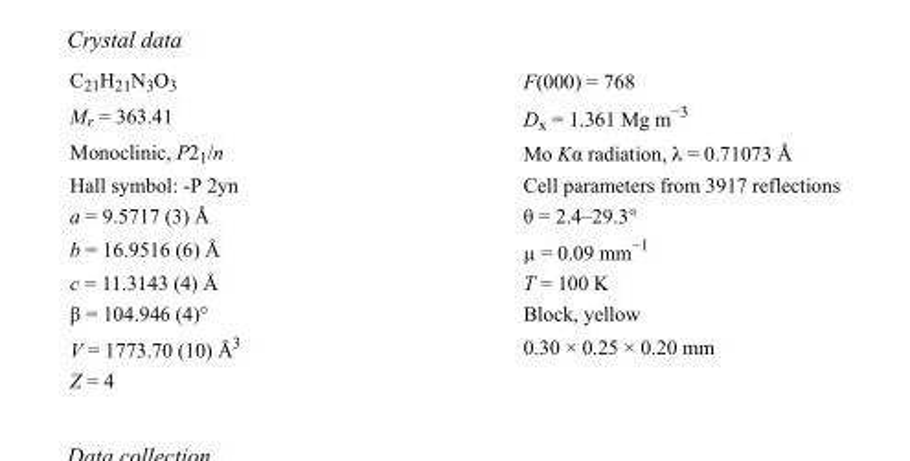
<table><tbody><tr><td>C<sub>21</sub>H<sub>21</sub>N<sub>3</sub>O<sub>3</sub></td><td>F(000) = 768</td></tr><tr><td>M<sub>r</sub> = 363.41</td><td>D<sub>x</sub> = 1.361 Mg m<sup>−3</sup></td></tr><tr><td>Monoclinic, P2<sub>1</sub>/n</td><td>Mo Kα radiation, λ = 0.71073 Å</td></tr><tr><td>Hall symbol: -P 2yn</td><td>Cell parameters from 3917 reflections</td></tr><tr><td>a = 9.5717 (3) Å</td><td>θ = 2.4–29.3°</td></tr><tr><td>b = 16.9516 (6) Å</td><td>µ = 0.09 mm<sup>−1</sup></td></tr><tr><td>c = 11.3143 (4) Å</td><td>T = 100 K</td></tr><tr><td>β = 104.946 (4)°</td><td>Block, yellow</td></tr><tr><td>V = 1773.70 (10) Å<sup>3</sup></td><td>0.30 × 0.25 × 0.20 mm</td></tr><tr><td>Z = 4</td><td></td></tr></tbody></table>